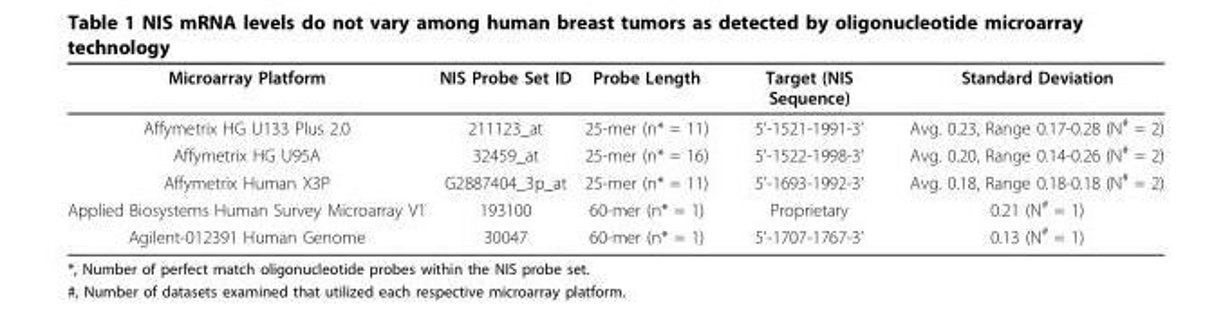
<table><thead><tr><td>Microarray Platform</td><td>NIS Probe Set ID</td><td>Probe Length</td><td>Target (NIS Sequence)</td><td>Standard Deviation</td></tr></thead><tbody><tr><td>Affymetrix HG U133 Plus 2.0</td><td>211123_at</td><td>25-mer (n* = 11)</td><td>5’-1521-1991-3’</td><td>Avg. 0.23, Range 0.17-0.28 (N<sup>#</sup> = 2)</td></tr><tr><td>Affymetrix HG U95A</td><td>32459_at</td><td>25-mer (n* = 16)</td><td>5’-1522-1998-3’</td><td>Avg. 0.20, Range 0.14-0.26 (N<sup>#</sup> = 2)</td></tr><tr><td>Affymetrix Human X3P</td><td>G2887404_3p_at</td><td>25-mer (n* = 11)</td><td>5’-1693-1992-3’</td><td>Avg. 0.18, Range 0.18-0.18 (N<sup>#</sup> = 2)</td></tr><tr><td>Applied Biosystems Human Survey Microarray V1</td><td>193100</td><td>60-mer (n* = 1)</td><td>Proprietary</td><td>0.21 (N<sup>#</sup> = 1)</td></tr><tr><td>Agilent-012391 Human Genome</td><td>30047</td><td>60-mer (n* = 1)</td><td>5’-1707-1767-3’</td><td>0.13 (N<sup>#</sup> = 1)</td></tr></tbody></table>